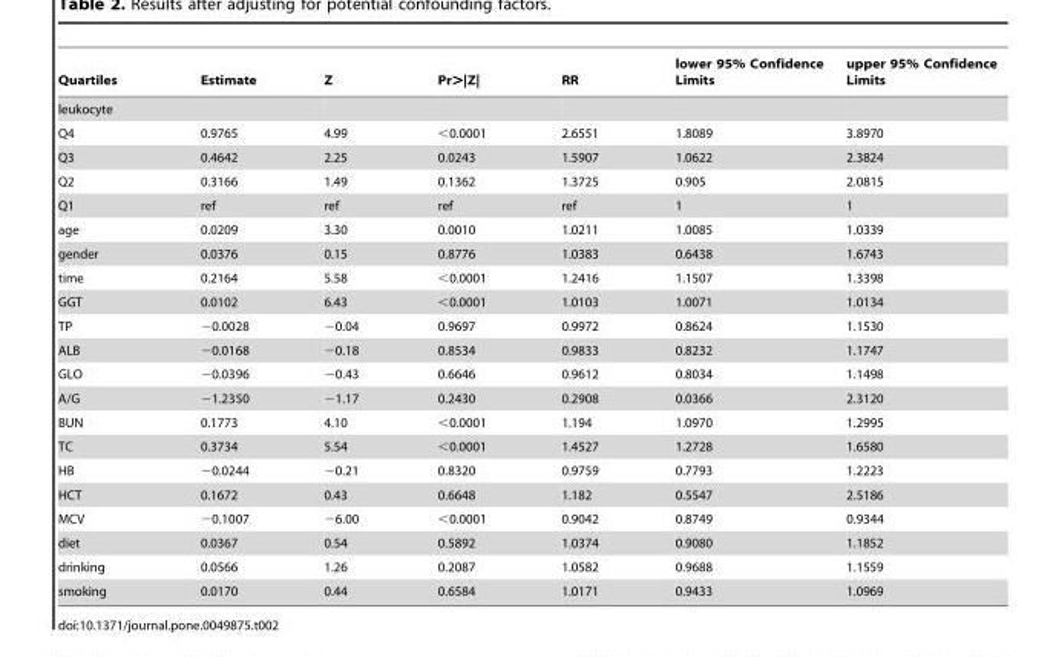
<table><thead><tr><td>Quartiles</td><td>Estimate</td><td>Z</td><td>Pr&gt;|Z|</td><td>RR</td><td>lower 95% Confidence Limits</td><td>upper 95% Confidence Limits</td></tr></thead><tbody><tr><td colspan="7">leukocyte</td></tr><tr><td>Q4</td><td>0.9765</td><td>4.99</td><td>&lt;0.0001</td><td>2.6551</td><td>1.8089</td><td>3.8970</td></tr><tr><td>Q3</td><td>0.4642</td><td>2.25</td><td>0.0243</td><td>1.5907</td><td>1.0622</td><td>2.3824</td></tr><tr><td>Q2</td><td>0.3166</td><td>1.49</td><td>0.1362</td><td>1.3725</td><td>0.905</td><td>2.0815</td></tr><tr><td>Q1</td><td>ref</td><td>ref</td><td>ref</td><td>ref</td><td>1</td><td>1</td></tr><tr><td>age</td><td>0.0209</td><td>3.30</td><td>0.0010</td><td>1.0211</td><td>1.0085</td><td>1.0339</td></tr><tr><td>gender</td><td>0.0376</td><td>0.15</td><td>0.8776</td><td>1.0383</td><td>0.6438</td><td>1.6743</td></tr><tr><td>time</td><td>0.2164</td><td>5.58</td><td>&lt;0.0001</td><td>1.2416</td><td>1.1507</td><td>1.3398</td></tr><tr><td>GGT</td><td>0.0102</td><td>6.43</td><td>&lt;0.0001</td><td>1.0103</td><td>1.0071</td><td>1.0134</td></tr><tr><td>TP</td><td>−0.0028</td><td>−0.04</td><td>0.9697</td><td>0.9972</td><td>0.8624</td><td>1.1530</td></tr><tr><td>ALB</td><td>−0.0168</td><td>−0.18</td><td>0.8534</td><td>0.9833</td><td>0.8232</td><td>1.1747</td></tr><tr><td>GLO</td><td>−0.0396</td><td>−0.43</td><td>0.6646</td><td>0.9612</td><td>0.8034</td><td>1.1498</td></tr><tr><td>A/G</td><td>−1.2350</td><td>−1.17</td><td>0.2430</td><td>0.2908</td><td>0.0366</td><td>2.3120</td></tr><tr><td>BUN</td><td>0.1773</td><td>4.10</td><td>&lt;0.0001</td><td>1.194</td><td>1.0970</td><td>1.2995</td></tr><tr><td>TC</td><td>0.3734</td><td>5.54</td><td>&lt;0.0001</td><td>1.4527</td><td>1.2728</td><td>1.6580</td></tr><tr><td>HB</td><td>−0.0244</td><td>−0.21</td><td>0.8320</td><td>0.9759</td><td>0.7793</td><td>1.2223</td></tr><tr><td>HCT</td><td>0.1672</td><td>0.43</td><td>0.6648</td><td>1.182</td><td>0.5547</td><td>2.5186</td></tr><tr><td>MCV</td><td>−0.1007</td><td>−6.00</td><td>&lt;0.0001</td><td>0.9042</td><td>0.8749</td><td>0.9344</td></tr><tr><td>diet</td><td>0.0367</td><td>0.54</td><td>0.5892</td><td>1.0374</td><td>0.9080</td><td>1.1852</td></tr><tr><td>drinking</td><td>0.0566</td><td>1.26</td><td>0.2087</td><td>1.0582</td><td>0.9688</td><td>1.1559</td></tr><tr><td>smoking</td><td>0.0170</td><td>0.44</td><td>0.6584</td><td>1.0171</td><td>0.9433</td><td>1.0969</td></tr></tbody></table>